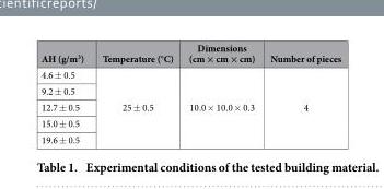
<table><thead><tr><td>AH (g/m<sup>3</sup>)</td><td>Temperature (°C)</td><td>Dimensions (cm × cm × cm)</td><td>Number of pieces</td></tr></thead><tbody><tr><td>4.6 ± 0.5</td><td rowspan="5">25 ± 0.5</td><td rowspan="5">10.0 × 10.0 × 0.3</td><td rowspan="5">4</td></tr><tr><td>9.2 ± 0.5</td></tr><tr><td>12.7 ± 0.5</td></tr><tr><td>15.0 ± 0.5</td></tr><tr><td>19.6 ± 0.5</td></tr></tbody></table>